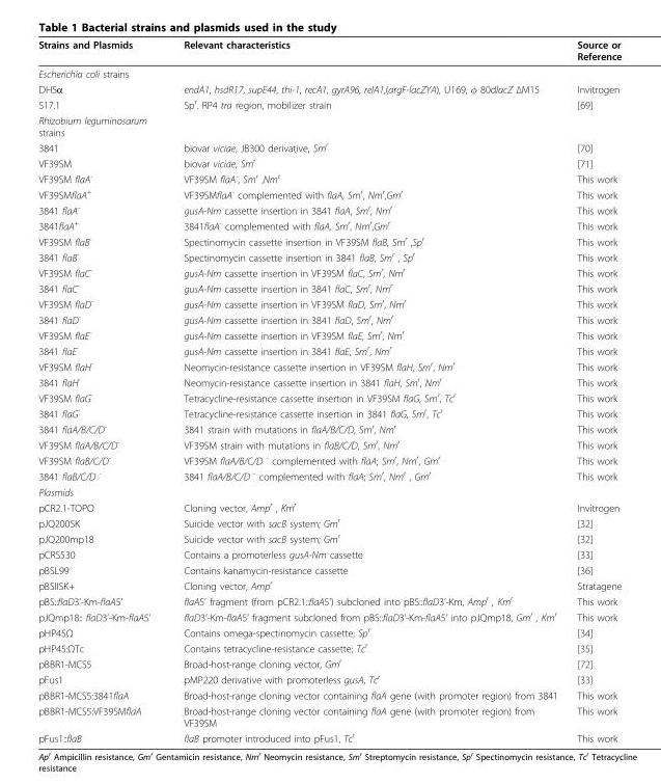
<table><thead><tr><td>Strains and Plasmids</td><td>Relevant characteristics</td><td>Source or Reference</td></tr></thead><tbody><tr><td colspan="3">Escherichia coli strains</td></tr><tr><td>DH5α</td><td>endA1, hsdR17, supE44, thi-1, recA1, gyrA96, relA1,(argF-lacZYA), U169, φ 80dlacZ ΔM15</td><td>Invitrogen</td></tr><tr><td>S17.1</td><td>Sp<sup>r</sup>. RP4 tra region, mobilizer strain</td><td>[69]</td></tr><tr><td colspan="3">Rhizobium leguminosarum strains</td></tr><tr><td>3841</td><td>biovar viciae, JB300 derivative, Sm<sup>r</sup></td><td>[70]</td></tr><tr><td>VF39SM</td><td>biovar viciae, Sm<sup>r</sup></td><td>[71]</td></tr><tr><td>VF39SM flaA<sup>-</sup></td><td>VF39SM flaA<sup>-</sup>, Sm<sup>r</sup> ,Nm<sup>r</sup></td><td>This work</td></tr><tr><td>VF39SMflaA<sup>+</sup></td><td>VF39SMflaA<sup>-</sup> complemented with flaA, Sm<sup>r</sup>, Nm<sup>r</sup>,Gm<sup>r</sup></td><td>This work</td></tr><tr><td>3841 flaA<sup>-</sup></td><td>gusA-Nm cassette insertion in 3841 flaA, Sm<sup>r</sup>, Nm<sup>r</sup></td><td>This work</td></tr><tr><td>3841flaA<sup>+</sup></td><td>3841flaA<sup>-</sup> complemented with flaA, Sm<sup>r</sup>, Nm<sup>r</sup>,Gm<sup>r</sup></td><td>This work</td></tr><tr><td>VF39SM flaB<sup>-</sup></td><td>Spectinomycin cassette insertion in VF39SM flaB, Sm<sup>r</sup> ,Sp<sup>r</sup></td><td>This work</td></tr><tr><td>3841 flaB<sup>-</sup></td><td>Spectinomycin cassette insertion in 3841 flaB, Sm<sup>r</sup> , Sp<sup>r</sup></td><td>This work</td></tr><tr><td>VF39SM flaC<sup>-</sup></td><td>gusA-Nm cassette insertion in VF39SM flaC, Sm<sup>r</sup>, Nm<sup>r</sup></td><td>This work</td></tr><tr><td>3841 flaC<sup>-</sup></td><td>gusA-Nm cassette insertion in 3841 flaC, Sm<sup>r</sup>, Nm<sup>r</sup></td><td>This work</td></tr><tr><td>VF39SM flaD<sup>-</sup></td><td>gusA-Nm cassette insertion in VF39SM flaD, Sm<sup>r</sup>, Nm<sup>r</sup></td><td>This work</td></tr><tr><td>3841 flaD<sup>-</sup></td><td>gusA-Nm cassette insertion in 3841 flaD, Sm<sup>r</sup>, Nm<sup>r</sup></td><td>This work</td></tr><tr><td>VF39SM flaE<sup>-</sup></td><td>gusA-Nm cassette insertion in VF39SM flaE, Sm<sup>r</sup>, Nm<sup>r</sup></td><td>This work</td></tr><tr><td>3841 flaE<sup>-</sup></td><td>gusA-Nm cassette insertion in 3841 flaE, Sm<sup>r</sup>, Nm<sup>r</sup></td><td>This work</td></tr><tr><td>VF39SM flaH<sup>-</sup></td><td>Neomycin-resistance cassette insertion in VF39SM flaH, Sm<sup>r</sup>, Nm<sup>r</sup></td><td>This work</td></tr><tr><td>3841 flaH<sup>-</sup></td><td>Neomycin-resistance cassette insertion in 3841 flaH, Sm<sup>r</sup>, Nm<sup>r</sup></td><td>This work</td></tr><tr><td>VF39SM flaG<sup>-</sup></td><td>Tetracycline-resistance cassette insertion in VF39SM flaG, Sm<sup>r</sup>, Tc<sup>r</sup></td><td>This work</td></tr><tr><td>3841 flaG<sup>-</sup></td><td>Tetracycline-resistance cassette insertion in 3841 flaG, Sm<sup>r</sup>, Tc<sup>r</sup></td><td>This work</td></tr><tr><td>3841 flaA/B/C/D<sup>-</sup></td><td>3841 strain with mutations in flaA/B/C/D, Sm<sup>r</sup>, Nm<sup>r</sup></td><td>This work</td></tr><tr><td>VF39SM flaA/B/C/D<sup>-</sup></td><td>VF39SM strain with mutations in flaB/C/D, Sm<sup>r</sup>, Nm<sup>r</sup></td><td>This work</td></tr><tr><td>VF39SM flaB/C/D<sup>-</sup></td><td>VF39SM flaA/B/C/D <sup>-</sup> complemented with flaA; Sm<sup>r</sup>, Nm<sup>r</sup>, Gm<sup>r</sup></td><td>This work</td></tr><tr><td>3841 flaB/C/D <sup>-</sup></td><td>3841 flaA/B/C/D <sup>-</sup> complemented with flaA; Sm<sup>r</sup>, Nm<sup>r</sup> , Gm<sup>r</sup></td><td>This work</td></tr><tr><td colspan="3">Plasmids</td></tr><tr><td>pCR2.1-TOPO</td><td>Cloning vector, Amp<sup>r</sup> , Km<sup>r</sup></td><td>Invitrogen</td></tr><tr><td>pJQ200SK</td><td>Suicide vector with sacB system; Gm<sup>r</sup></td><td>[32]</td></tr><tr><td>pJQ200mp18</td><td>Suicide vector with sacB system; Gm<sup>r</sup></td><td>[32]</td></tr><tr><td>pCRS530</td><td>Contains a promoterless gusA-Nm cassette</td><td>[33]</td></tr><tr><td>pBSL99</td><td>Contains kanamycin-resistance cassette</td><td>[36]</td></tr><tr><td>pBSIISK+</td><td>Cloning vector, Amp<sup>r</sup></td><td>Stratagene</td></tr><tr><td>pBS::flaD3’-Km-flaA5’</td><td>flaA5’ fragment (from pCR2.1::flaA5’) subcloned into pBS::flaD3’-Km, Amp<sup>r</sup> , Km<sup>r</sup></td><td>This work</td></tr><tr><td>pJQmp18:: flaD3’-Km-flaA5’</td><td>flaD3’-Km-flaA5’ fragment subcloned from pBS::flaD3’-Km-flaA5’ into pJQmp18, Gm<sup>r</sup> , Km<sup>r</sup></td><td>This work</td></tr><tr><td>pHP45Ω</td><td>Contains omega-spectinomycin cassette; Sp<sup>r</sup></td><td>[34]</td></tr><tr><td>pHP45:ΩTc</td><td>Contains tetracycline-resistance cassette; Tc<sup>r</sup></td><td>[35]</td></tr><tr><td>pBBR1-MCS5</td><td>Broad-host-range cloning vector, Gm<sup>r</sup></td><td>[72]</td></tr><tr><td>pFus1</td><td>pMP220 derivative with promoterless gusA, Tc<sup>r</sup></td><td>[33]</td></tr><tr><td>pBBR1-MCS5:3841flaA</td><td>Broad-host-range cloning vector containing flaA gene (with promoter region) from 3841</td><td>This work</td></tr><tr><td>pBBR1-MCS5:VF39SMflaA</td><td>Broad-host-range cloning vector containing flaA gene (with promoter region) from VF39SM</td><td>This work</td></tr><tr><td>pFus1::flaB</td><td>flaB promoter introduced into pFus1, Tc<sup>r</sup></td><td>This work</td></tr></tbody></table>